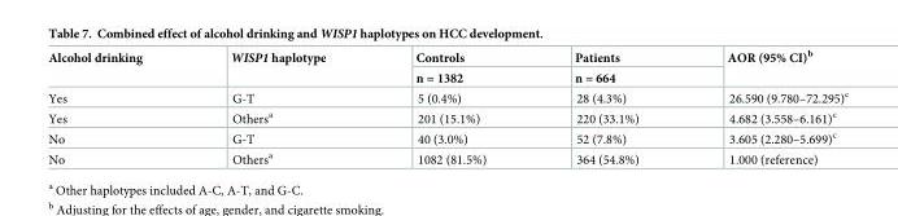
<table><thead><tr><td rowspan="2">Alcohol drinking</td><td rowspan="2">WISP1 haplotype</td><td rowspan="2">Controls n = 1382</td><td rowspan="2">Patients n = 664</td><td rowspan="2">AOR (95% CI)<sup>b</sup></td></tr><tr></tr></thead><tbody><tr><td>Yes</td><td>G-T</td><td>5 (0.4%)</td><td>28 (4.3%)</td><td>26.590 (9.780–72.295)<sup>c</sup></td></tr><tr><td>Yes</td><td>Others<sup>a</sup></td><td>201 (15.1%)</td><td>220 (33.1%)</td><td>4.682 (3.558–6.161)<sup>c</sup></td></tr><tr><td>No</td><td>G-T</td><td>40 (3.0%)</td><td>52 (7.8%)</td><td>3.605 (2.280–5.699)<sup>c</sup></td></tr><tr><td>No</td><td>Others<sup>a</sup></td><td>1082 (81.5%)</td><td>364 (54.8%)</td><td>1.000 (reference)</td></tr></tbody></table>